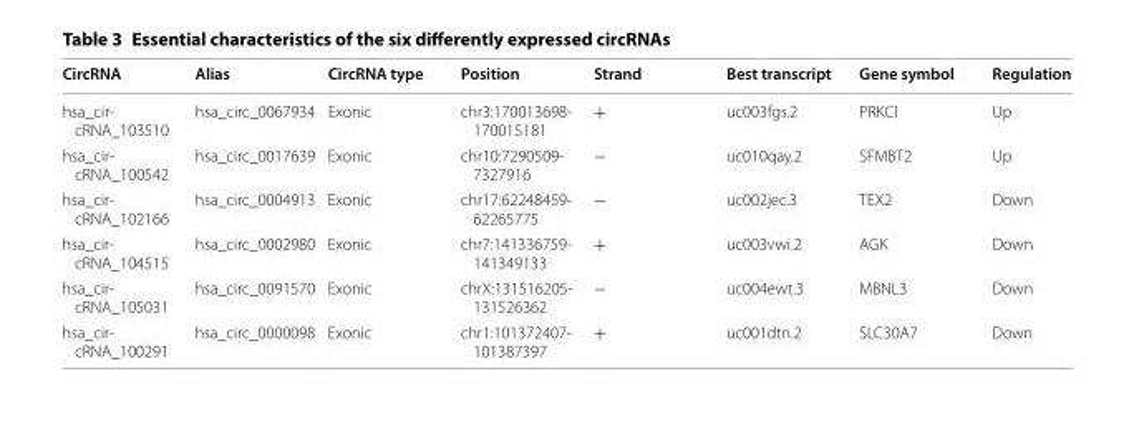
<table><thead><tr><td>CircRNA</td><td>Alias</td><td>CircRNA type</td><td>Position</td><td>Strand</td><td>Best transcript</td><td>Gene symbol</td><td>Regulation</td></tr></thead><tbody><tr><td>hsa_cir‑ cRNA_103510</td><td>hsa_circ_0067934</td><td>Exonic</td><td>chr3:170013698‑ 170015181</td><td>+</td><td>uc003fgs.2</td><td>PRKCI</td><td>Up</td></tr><tr><td>hsa_cir‑ cRNA_100542</td><td>hsa_circ_0017639</td><td>Exonic</td><td>chr10:7290509‑ 7327916</td><td>−</td><td>uc010qay.2</td><td>SFMBT2</td><td>Up</td></tr><tr><td>hsa_cir‑ cRNA_102166</td><td>hsa_circ_0004913</td><td>Exonic</td><td>chr17:62248459‑ 62265775</td><td>−</td><td>uc002jec.3</td><td>TEX2</td><td>Down</td></tr><tr><td>hsa_cir‑ cRNA_104515</td><td>hsa_circ_0002980</td><td>Exonic</td><td>chr7:141336759‑ 141349133</td><td>+</td><td>uc003vwi.2</td><td>AGK</td><td>Down</td></tr><tr><td>hsa_cir‑ cRNA_105031</td><td>hsa_circ_0091570</td><td>Exonic</td><td>chrX:131516205‑ 131526362</td><td>−</td><td>uc004ewt.3</td><td>MBNL3</td><td>Down</td></tr><tr><td>hsa_cir‑ cRNA_100291</td><td>hsa_circ_0000098</td><td>Exonic</td><td>chr1:101372407‑ 101387397</td><td>+</td><td>uc001dtn.2</td><td>SLC30A7</td><td>Down</td></tr></tbody></table>